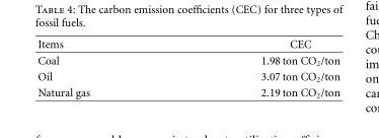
<table><thead><tr><td>Items</td><td>CEC</td></tr></thead><tbody><tr><td>Coal</td><td>1.98 ton CO<sub>2</sub>/ton</td></tr><tr><td>Oil</td><td>3.07 ton CO<sub>2</sub>/ton</td></tr><tr><td>Natural gas</td><td>2.19 ton CO<sub>2</sub>/ton</td></tr></tbody></table>